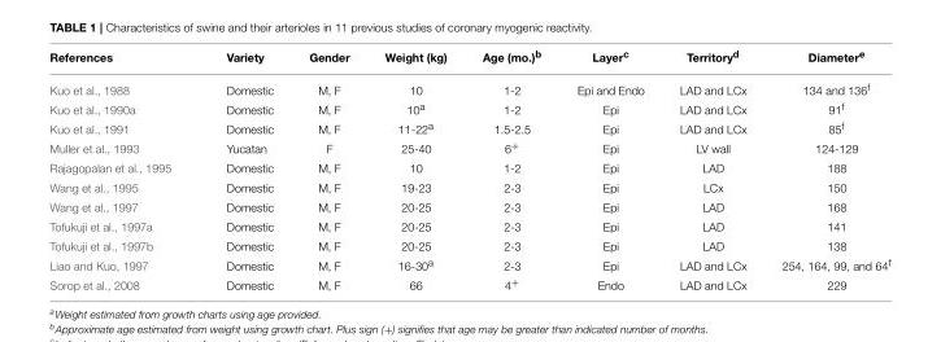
<table><thead><tr><td>References</td><td>Variety</td><td>Gender</td><td>Weight (kg)</td><td>Age (mo.)<sup>b</sup></td><td>Layer<sup>c</sup></td><td>Territory<sup>d</sup></td><td>Diameter<sup>e</sup></td></tr></thead><tbody><tr><td>Kuo et al., 1988</td><td>Domestic</td><td>M, F</td><td>10</td><td>1-2</td><td>Epi and Endo</td><td>LAD and LCx</td><td>134 and 136<sup>f</sup></td></tr><tr><td>Kuo et al., 1990a</td><td>Domestic</td><td>M, F</td><td>10<sup>a</sup></td><td>1-2</td><td>Epi</td><td>LAD and LCx</td><td>91<sup>f</sup></td></tr><tr><td>Kuo et al., 1991</td><td>Domestic</td><td>M, F</td><td>11-22<sup>a</sup></td><td>1.5-2.5</td><td>Epi</td><td>LAD and LCx</td><td>85<sup>f</sup></td></tr><tr><td>Muller et al., 1993</td><td>Yucatan</td><td>F</td><td>25-40</td><td>6<sup>+</sup></td><td>Epi</td><td>LV wall</td><td>124-129</td></tr><tr><td>Rajagopalan et al., 1995</td><td>Domestic</td><td>M, F</td><td>10</td><td>1-2</td><td>Epi</td><td>LAD</td><td>188</td></tr><tr><td>Wang et al., 1995</td><td>Domestic</td><td>M, F</td><td>19-23</td><td>2-3</td><td>Epi</td><td>LCx</td><td>150</td></tr><tr><td>Wang et al., 1997</td><td>Domestic</td><td>M, F</td><td>20-25</td><td>2-3</td><td>Epi</td><td>LAD</td><td>168</td></tr><tr><td>Tofukuji et al., 1997a</td><td>Domestic</td><td>M, F</td><td>20-25</td><td>2-3</td><td>Epi</td><td>LAD</td><td>141</td></tr><tr><td>Tofukuji et al., 1997b</td><td>Domestic</td><td>M, F</td><td>20-25</td><td>2-3</td><td>Epi</td><td>LAD</td><td>138</td></tr><tr><td>Liao and Kuo, 1997</td><td>Domestic</td><td>M, F</td><td>16-30<sup>a</sup></td><td>2-3</td><td>Epi</td><td>LAD and LCx</td><td>254, 164, 99, and 64<sup>f</sup></td></tr><tr><td>Sorop et al., 2008</td><td>Domestic</td><td>M, F</td><td>66</td><td>4<sup>+</sup></td><td>Endo</td><td>LAD and LCx</td><td>229</td></tr></tbody></table>